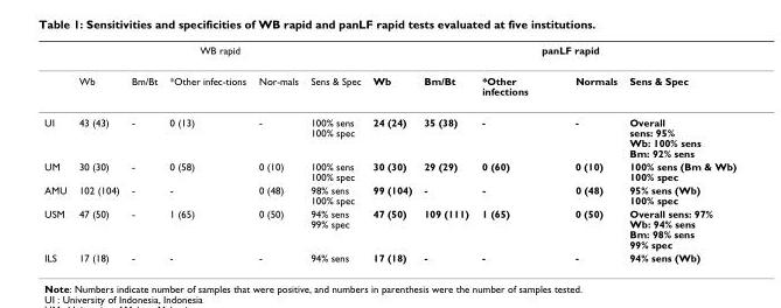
<table><thead><tr><td rowspan="2"></td><td colspan="5">WB rapid</td><td colspan="5">panLF rapid</td></tr><tr><td>Wb</td><td>Bm/Bt</td><td>*Other infec-tions</td><td>Nor-mals</td><td>Sens &amp; Spec</td><td>Wb</td><td>Bm/Bt</td><td>*Other infections</td><td>Normals</td><td>Sens &amp; Spec</td></tr></thead><tbody><tr><td>UI</td><td>43 (43)</td><td>-</td><td>0 (13)</td><td>-</td><td>100% sens 100% spec</td><td>24 (24)</td><td>35 (38)</td><td>-</td><td>-</td><td>Overall sens: 95% Wb: 100% sens Bm: 92% sens</td></tr><tr><td>UM</td><td>30 (30)</td><td>-</td><td>0 (58)</td><td>0 (10)</td><td>100% sens 100% spec</td><td>30 (30)</td><td>29 (29)</td><td>0 (60)</td><td>0 (10)</td><td>100% sens (Bm &amp; Wb) 100% spec</td></tr><tr><td>AMU</td><td>102 (104)</td><td>-</td><td>-</td><td>0 (48)</td><td>98% sens 100% spec</td><td>99 (104)</td><td>-</td><td>-</td><td>0 (48)</td><td>95% sens (Wb) 100% spec</td></tr><tr><td>USM</td><td>47 (50)</td><td>-</td><td>1 (65)</td><td>0 (50)</td><td>94% sens 99% spec</td><td>47 (50)</td><td>109 (111)</td><td>1 (65)</td><td>0 (50)</td><td>Overall sens: 97% Wb: 94% sens Bm: 98% sens 99% spec</td></tr><tr><td>ILS</td><td>17 (18)</td><td>-</td><td>-</td><td>-</td><td>94% sens</td><td>17 (18)</td><td>-</td><td>-</td><td>-</td><td>94% sens (Wb)</td></tr></tbody></table>